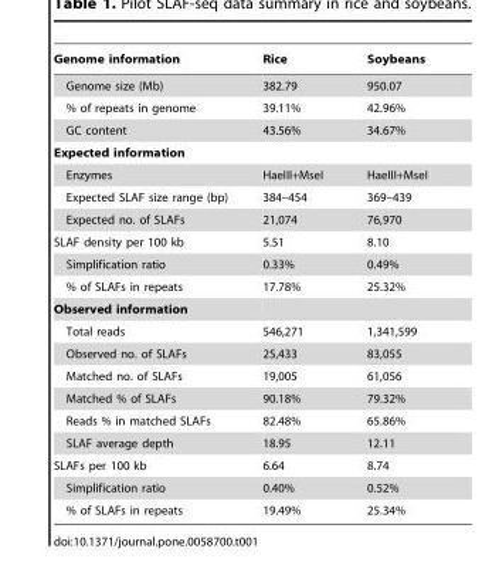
<table><thead><tr><td>Genome information</td><td>Rice</td><td>Soybeans</td></tr></thead><tbody><tr><td>Genome size (Mb)</td><td>382.79</td><td>950.07</td></tr><tr><td>% of repeats in genome</td><td>39.11%</td><td>42.96%</td></tr><tr><td>GC content</td><td>43.56%</td><td>34.67%</td></tr><tr><td colspan="3">Expected information</td></tr><tr><td>Enzymes</td><td>HaeIII+MseI</td><td>HaeIII+MseI</td></tr><tr><td>Expected SLAF size range (bp)</td><td>384–454</td><td>369–439</td></tr><tr><td>Expected no. of SLAFs</td><td>21,074</td><td>76,970</td></tr><tr><td>SLAF density per 100 kb</td><td>5.51</td><td>8.10</td></tr><tr><td>Simplification ratio</td><td>0.33%</td><td>0.49%</td></tr><tr><td>% of SLAFs in repeats</td><td>17.78%</td><td>25.32%</td></tr><tr><td colspan="3">Observed information</td></tr><tr><td>Total reads</td><td>546,271</td><td>1,341,599</td></tr><tr><td>Observed no. of SLAFs</td><td>25,433</td><td>83,055</td></tr><tr><td>Matched no. of SLAFs</td><td>19,005</td><td>61,056</td></tr><tr><td>Matched % of SLAFs</td><td>90.18%</td><td>79.32%</td></tr><tr><td>Reads % in matched SLAFs</td><td>82.48%</td><td>65.86%</td></tr><tr><td>SLAF average depth</td><td>18.95</td><td>12.11</td></tr><tr><td>SLAFs per 100 kb</td><td>6.64</td><td>8.74</td></tr><tr><td>Simplification ratio</td><td>0.40%</td><td>0.52%</td></tr><tr><td>% of SLAFs in repeats</td><td>19.49%</td><td>25.34%</td></tr></tbody></table>